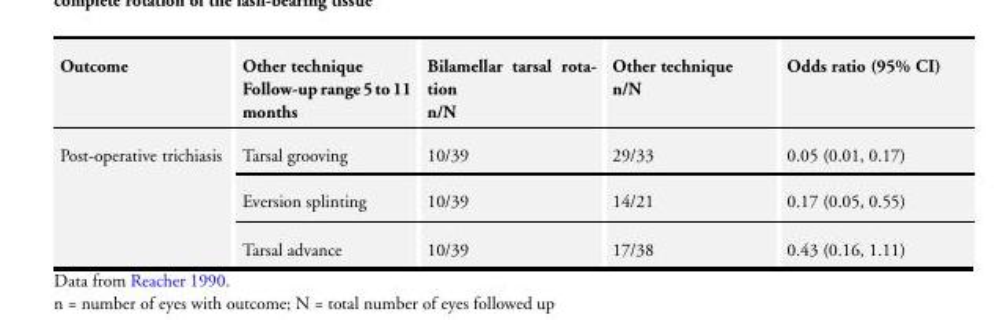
<table><tbody><tr><td>Outcome</td><td>Other technique Follow-up range5to 11 months</td><td>Bilamellar tarsal rota- tion n/N</td><td>Other technique n/N</td><td>Odds ratio (95% CI)</td></tr><tr><td rowspan="3">Post-operative trichiasis</td><td>Tarsal grooving</td><td>10/39</td><td>29/33</td><td>0.05 (0.01, 0.17)</td></tr><tr><td>Eversion splinting</td><td>10/39</td><td>14/21</td><td>0.17 (0.05, 0.55)</td></tr><tr><td>Tarsal advance</td><td>10/39</td><td>17/38</td><td>0.43 (0.16, 1.11)</td></tr></tbody></table>